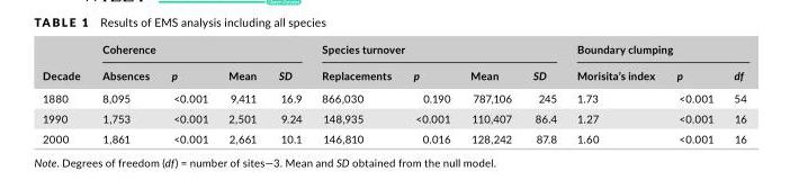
<table><thead><tr><td rowspan="2">Decade</td><td colspan="4">Coherence</td><td colspan="4">Species turnover</td><td colspan="3">Boundary clumping</td></tr><tr><td>Absences</td><td>p</td><td>Mean</td><td>SD</td><td>Replacements</td><td>p</td><td>Mean</td><td>SD</td><td>Morisita’s index</td><td>p</td><td>df</td></tr></thead><tbody><tr><td>1880</td><td>8,095</td><td>&lt;0.001</td><td>9,411</td><td>16.9</td><td>866,030</td><td>0.190</td><td>787,106</td><td>245</td><td>1.73</td><td>&lt;0.001</td><td>54</td></tr><tr><td>1990</td><td>1,753</td><td>&lt;0.001</td><td>2,501</td><td>9.24</td><td>148,935</td><td>&lt;0.001</td><td>110,407</td><td>86.4</td><td>1.27</td><td>&lt;0.001</td><td>16</td></tr><tr><td>2000</td><td>1,861</td><td>&lt;0.001</td><td>2,661</td><td>10.1</td><td>146,810</td><td>0.016</td><td>128,242</td><td>87.8</td><td>1.60</td><td>&lt;0.001</td><td>16</td></tr></tbody></table>